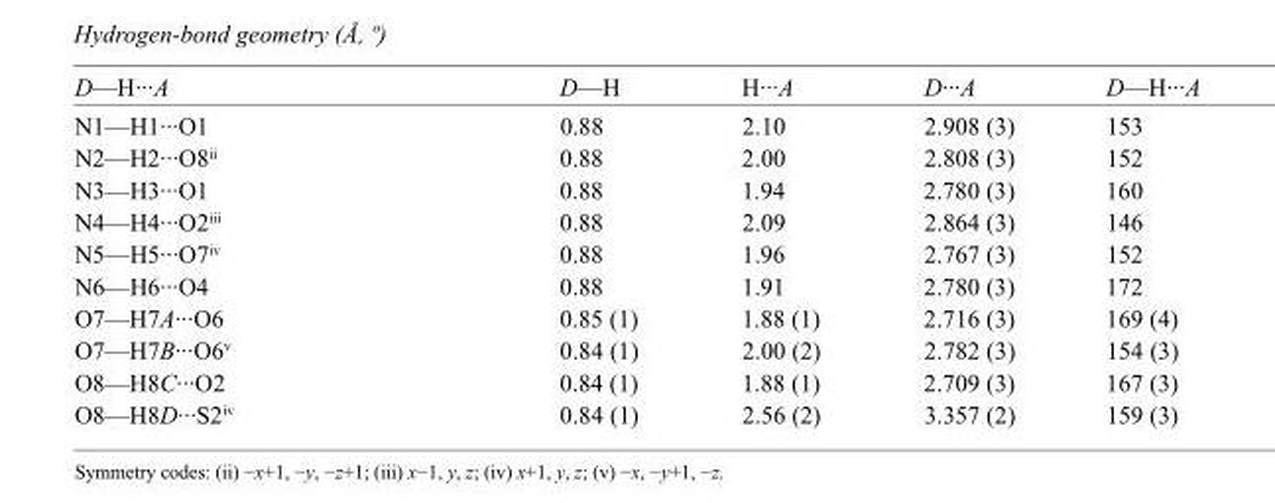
<table><tbody><tr><td>D—H···A</td><td>D—H</td><td>H···A</td><td>D···A</td><td>D—H···A</td></tr><tr><td>N1—H1···O1</td><td>0.88</td><td>2.10</td><td>2.908 (3)</td><td>153</td></tr><tr><td>N2—H2···O8<sup>ii</sup></td><td>0.88</td><td>2.00</td><td>2.808 (3)</td><td>152</td></tr><tr><td>N3—H3···O1</td><td>0.88</td><td>1.94</td><td>2.780 (3)</td><td>160</td></tr><tr><td>N4—H4···O2<sup>iii</sup></td><td>0.88</td><td>2.09</td><td>2.864 (3)</td><td>146</td></tr><tr><td>N5—H5···O7<sup>iv</sup></td><td>0.88</td><td>1.96</td><td>2.767 (3)</td><td>152</td></tr><tr><td>N6—H6···O4</td><td>0.88</td><td>1.91</td><td>2.780 (3)</td><td>172</td></tr><tr><td>O7—H7A···O6</td><td>0.85 (1)</td><td>1.88 (1)</td><td>2.716 (3)</td><td>169 (4)</td></tr><tr><td>O7—H7B···O6<sup>v</sup></td><td>0.84 (1)</td><td>2.00 (2)</td><td>2.782 (3)</td><td>154 (3)</td></tr><tr><td>O8—H8C···O2</td><td>0.84 (1)</td><td>1.88 (1)</td><td>2.709 (3)</td><td>167 (3)</td></tr><tr><td>O8—H8D···S2<sup>iv</sup></td><td>0.84 (1)</td><td>2.56 (2)</td><td>3.357 (2)</td><td>159 (3)</td></tr></tbody></table>